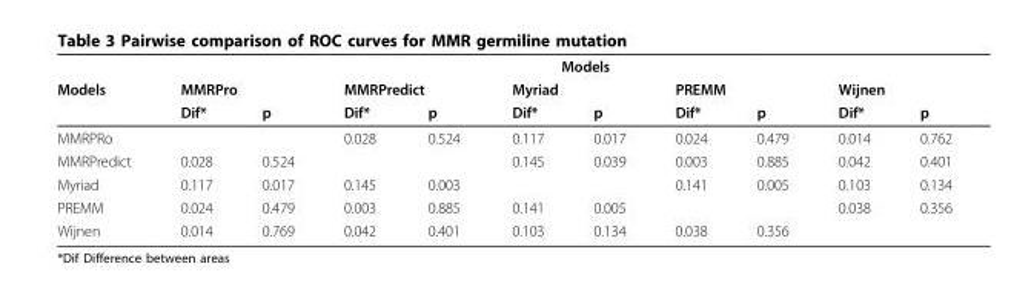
<table><thead><tr><td rowspan="3">Models</td><td colspan="10">Models</td></tr><tr><td colspan="2">MMRPro</td><td colspan="2">MMRPredict</td><td colspan="2">Myriad</td><td colspan="2">PREMM</td><td colspan="2">Wijnen</td></tr><tr><td>Dif*</td><td>p</td><td>Dif*</td><td>p</td><td>Dif*</td><td>p</td><td>Dif*</td><td>p</td><td>Dif*</td><td>p</td></tr></thead><tbody><tr><td>MMRPRo</td><td></td><td></td><td>0.028</td><td>0.524</td><td>0.117</td><td>0.017</td><td>0.024</td><td>0.479</td><td>0.014</td><td>0.762</td></tr><tr><td>MMRPredict</td><td>0.028</td><td>0.524</td><td></td><td></td><td>0.145</td><td>0.039</td><td>0.003</td><td>0.885</td><td>0.042</td><td>0.401</td></tr><tr><td>Myriad</td><td>0.117</td><td>0.017</td><td>0.145</td><td>0.003</td><td></td><td></td><td>0.141</td><td>0.005</td><td>0.103</td><td>0.134</td></tr><tr><td>PREMM</td><td>0.024</td><td>0.479</td><td>0.003</td><td>0.885</td><td>0.141</td><td>0.005</td><td></td><td></td><td>0.038</td><td>0.356</td></tr><tr><td>Wijnen</td><td>0.014</td><td>0.769</td><td>0.042</td><td>0.401</td><td>0.103</td><td>0.134</td><td>0.038</td><td>0.356</td><td></td><td></td></tr></tbody></table>